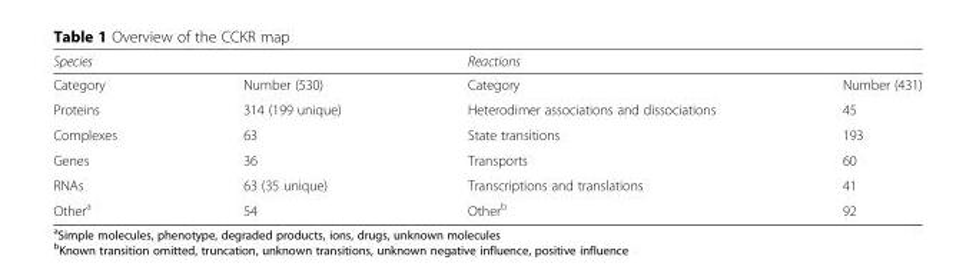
<table><thead><tr><td colspan="2">Species</td><td colspan="2">Reactions</td></tr><tr><td>Category</td><td>Number (530)</td><td>Category</td><td>Number (431)</td></tr></thead><tbody><tr><td>Proteins</td><td>314 (199 unique)</td><td>Heterodimer associations and dissociations</td><td>45</td></tr><tr><td>Complexes</td><td>63</td><td>State transitions</td><td>193</td></tr><tr><td>Genes</td><td>36</td><td>Transports</td><td>60</td></tr><tr><td>RNAs</td><td>63 (35 unique)</td><td>Transcriptions and translations</td><td>41</td></tr><tr><td>Other<sup>a</sup></td><td>54</td><td>Other<sup>b</sup></td><td>92</td></tr></tbody></table>